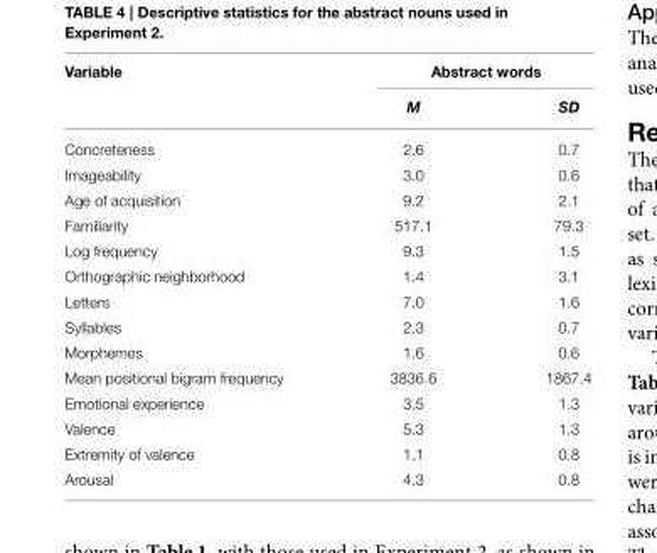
<table><thead><tr><td rowspan="2">Variable</td><td colspan="2">Abstract words</td></tr><tr><td>M</td><td>SD</td></tr></thead><tbody><tr><td>Concreteness</td><td>2.6</td><td>0.7</td></tr><tr><td>Imageability</td><td>3.0</td><td>0.6</td></tr><tr><td>Age of acquisition</td><td>9.2</td><td>2.1</td></tr><tr><td>Familiarity</td><td>517.1</td><td>79.3</td></tr><tr><td>Log frequency</td><td>9.3</td><td>1.5</td></tr><tr><td>Orthographic neighborhood</td><td>1.4</td><td>3.1</td></tr><tr><td>Letters</td><td>7.0</td><td>1.6</td></tr><tr><td>Syllables</td><td>2.3</td><td>0.7</td></tr><tr><td>Morphemes</td><td>1.6</td><td>0.6</td></tr><tr><td>Mean positional bigram frequency</td><td>3836.6</td><td>1867.4</td></tr><tr><td>Emotional experience</td><td>3.5</td><td>1.3</td></tr><tr><td>Valence</td><td>5.3</td><td>1.3</td></tr><tr><td>Extremity of valence</td><td>1.1</td><td>0.8</td></tr><tr><td>Arousal</td><td>4.3</td><td>0.8</td></tr></tbody></table>